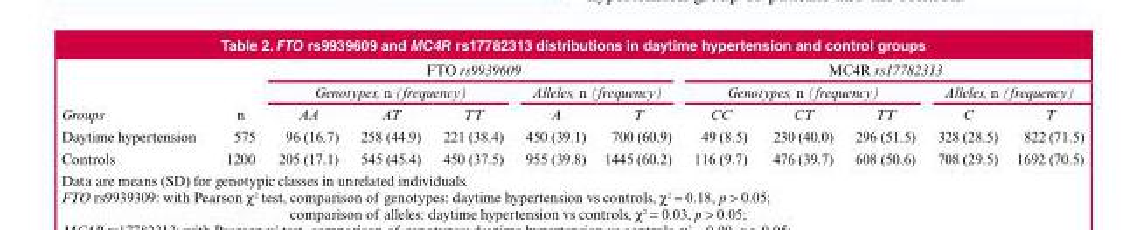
<table><thead><tr><td rowspan="3">Groups</td><td rowspan="3">n</td><td colspan="5">FTO rs9939609</td><td colspan="5">MC4R rs17782313</td></tr><tr><td colspan="3">Genotypes, n (frequency)</td><td colspan="2">Alleles, n (frequency)</td><td colspan="3">Genotypes, n (frequency)</td><td colspan="2">Alleles, n (frequency)</td></tr><tr><td>AA</td><td>AT</td><td>TT</td><td>A</td><td>T</td><td>CC</td><td>CT</td><td>TT</td><td>C</td><td>T</td></tr></thead><tbody><tr><td>Daytime hypertension</td><td>575</td><td>96 (16.7)</td><td>258 (44.9)</td><td>221 (38.4)</td><td>450 (39.1)</td><td>700 (60.9)</td><td>49 (8.5)</td><td>230 (40.0)</td><td>296 (51.5)</td><td>328 (28.5)</td><td>822 (71.5)</td></tr><tr><td>Controls</td><td>1200</td><td>205 (17.1)</td><td>545 (45.4)</td><td>450 (37.5)</td><td>955 (39.8)</td><td>1445 (60.2)</td><td>116 (9.7)</td><td>476 (39.7)</td><td>608 (50.6)</td><td>708 (29.5)</td><td>1692 (70.5)</td></tr></tbody></table>